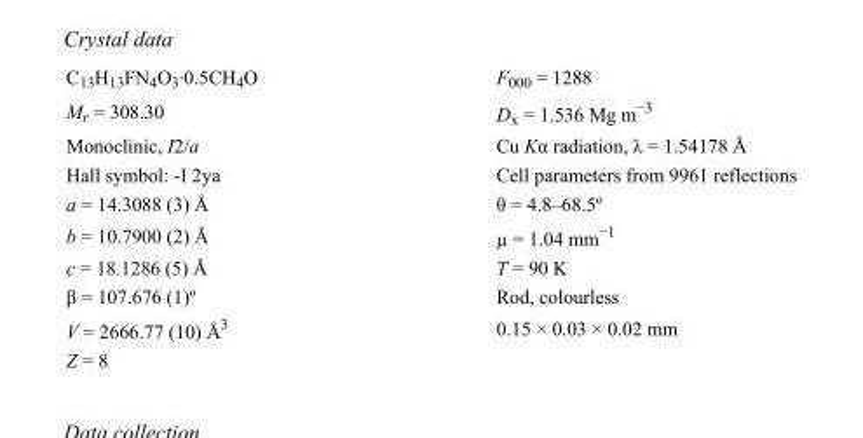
<table><tbody><tr><td>C<sub>13</sub>H<sub>13</sub>FN<sub>4</sub>O<sub>3</sub>·0.5CH<sub>4</sub>O</td><td>F000 = 1288</td></tr><tr><td>M<sub>r</sub> = 308.30</td><td>D<sub>x</sub> = 1.536 Mg m<sup>−3</sup></td></tr><tr><td>Monoclinic, I2/a</td><td>Cu Kα radiation, λ = 1.54178 Å</td></tr><tr><td>Hall symbol: -I 2ya</td><td>Cell parameters from 9961 reflections</td></tr><tr><td>a = 14.3088 (3) Å</td><td>θ = 4.8–68.5º</td></tr><tr><td>b = 10.7900 (2) Å</td><td>µ = 1.04 mm<sup>−1</sup></td></tr><tr><td>c = 18.1286 (5) Å</td><td>T = 90 K</td></tr><tr><td>β = 107.676 (1)º</td><td>Rod, colourless</td></tr><tr><td>V = 2666.77 (10) Å<sup>3</sup></td><td>0.15 × 0.03 × 0.02 mm</td></tr><tr><td>Z = 8</td><td></td></tr></tbody></table>